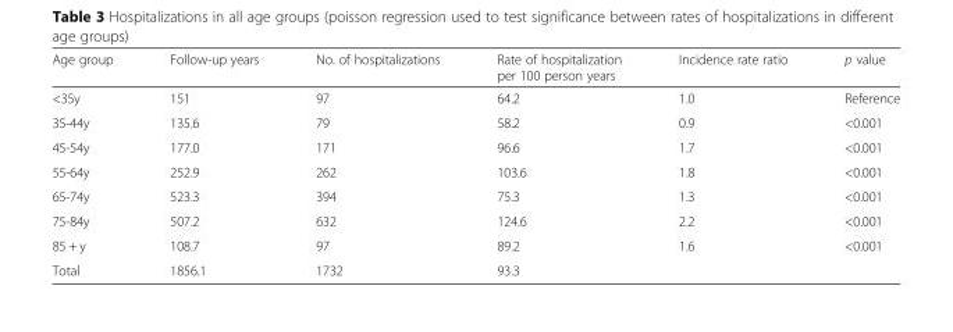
<table><thead><tr><td>Age group</td><td>Follow-up years</td><td>No. of hospitalizations</td><td>Rate of hospitalization per 100 person years</td><td>Incidence rate ratio</td><td>p value</td></tr></thead><tbody><tr><td>&lt;35y</td><td>151</td><td>97</td><td>64.2</td><td>1.0</td><td>Reference</td></tr><tr><td>35-44y</td><td>135.6</td><td>79</td><td>58.2</td><td>0.9</td><td>&lt;0.001</td></tr><tr><td>45-54y</td><td>177.0</td><td>171</td><td>96.6</td><td>1.7</td><td>&lt;0.001</td></tr><tr><td>55-64y</td><td>252.9</td><td>262</td><td>103.6</td><td>1.8</td><td>&lt;0.001</td></tr><tr><td>65-74y</td><td>523.3</td><td>394</td><td>75.3</td><td>1.3</td><td>&lt;0.001</td></tr><tr><td>75-84y</td><td>507.2</td><td>632</td><td>124.6</td><td>2.2</td><td>&lt;0.001</td></tr><tr><td>85 + y</td><td>108.7</td><td>97</td><td>89.2</td><td>1.6</td><td>&lt;0.001</td></tr><tr><td>Total</td><td>1856.1</td><td>1732</td><td>93.3</td><td></td><td></td></tr></tbody></table>